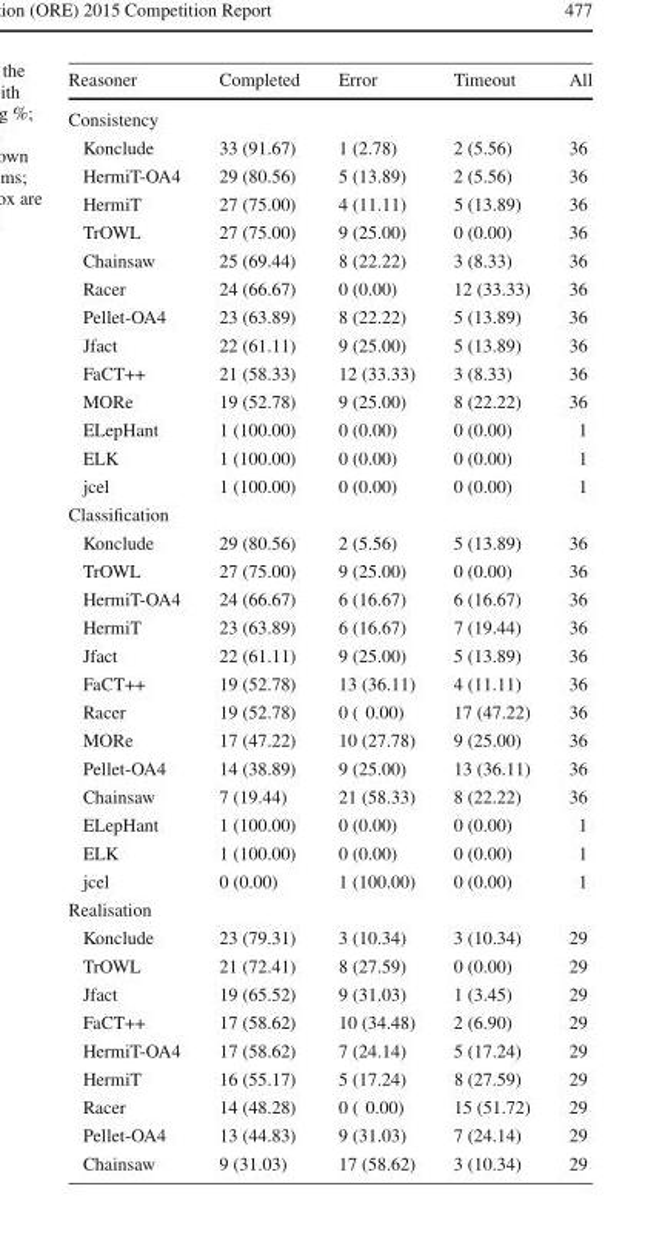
<table><thead><tr><td>Reasoner</td><td>Completed</td><td>Error</td><td>Timeout</td><td>All</td></tr></thead><tbody><tr><td colspan="5">Consistency</td></tr><tr><td>Konclude</td><td>33 (91.67)</td><td>1 (2.78)</td><td>2 (5.56)</td><td>36</td></tr><tr><td>HermiT-OA4</td><td>29 (80.56)</td><td>5 (13.89)</td><td>2 (5.56)</td><td>36</td></tr><tr><td>HermiT</td><td>27 (75.00)</td><td>4 (11.11)</td><td>5 (13.89)</td><td>36</td></tr><tr><td>TrOWL</td><td>27 (75.00)</td><td>9 (25.00)</td><td>0 (0.00)</td><td>36</td></tr><tr><td>Chainsaw</td><td>25 (69.44)</td><td>8 (22.22)</td><td>3 (8.33)</td><td>36</td></tr><tr><td>Racer</td><td>24 (66.67)</td><td>0 (0.00)</td><td>12 (33.33)</td><td>36</td></tr><tr><td>Pellet-OA4</td><td>23 (63.89)</td><td>8 (22.22)</td><td>5 (13.89)</td><td>36</td></tr><tr><td>Jfact</td><td>22 (61.11)</td><td>9 (25.00)</td><td>5 (13.89)</td><td>36</td></tr><tr><td>FaCT++</td><td>21 (58.33)</td><td>12 (33.33)</td><td>3 (8.33)</td><td>36</td></tr><tr><td>MORe</td><td>19 (52.78)</td><td>9 (25.00)</td><td>8 (22.22)</td><td>36</td></tr><tr><td>ELepHant</td><td>1 (100.00)</td><td>0 (0.00)</td><td>0 (0.00)</td><td>1</td></tr><tr><td>ELK</td><td>1 (100.00)</td><td>0 (0.00)</td><td>0 (0.00)</td><td>1</td></tr><tr><td>jcel</td><td>1 (100.00)</td><td>0 (0.00)</td><td>0 (0.00)</td><td>1</td></tr><tr><td colspan="5">Classification</td></tr><tr><td>Konclude</td><td>29 (80.56)</td><td>2 (5.56)</td><td>5 (13.89)</td><td>36</td></tr><tr><td>TrOWL</td><td>27 (75.00)</td><td>9 (25.00)</td><td>0 (0.00)</td><td>36</td></tr><tr><td>HermiT-OA4</td><td>24 (66.67)</td><td>6 (16.67)</td><td>6 (16.67)</td><td>36</td></tr><tr><td>HermiT</td><td>23 (63.89)</td><td>6 (16.67)</td><td>7 (19.44)</td><td>36</td></tr><tr><td>Jfact</td><td>22 (61.11)</td><td>9 (25.00)</td><td>5 (13.89)</td><td>36</td></tr><tr><td>FaCT++</td><td>19 (52.78)</td><td>13 (36.11)</td><td>4 (11.11)</td><td>36</td></tr><tr><td>Racer</td><td>19 (52.78)</td><td>0 ( 0.00)</td><td>17 (47.22)</td><td>36</td></tr><tr><td>MORe</td><td>17 (47.22)</td><td>10 (27.78)</td><td>9 (25.00)</td><td>36</td></tr><tr><td>Pellet-OA4</td><td>14 (38.89)</td><td>9 (25.00)</td><td>13 (36.11)</td><td>36</td></tr><tr><td>Chainsaw</td><td>7 (19.44)</td><td>21 (58.33)</td><td>8 (22.22)</td><td>36</td></tr><tr><td>ELepHant</td><td>1 (100.00)</td><td>0 (0.00)</td><td>0 (0.00)</td><td>1</td></tr><tr><td>ELK</td><td>1 (100.00)</td><td>0 (0.00)</td><td>0 (0.00)</td><td>1</td></tr><tr><td>jcel</td><td>0 (0.00)</td><td>1 (100.00)</td><td>0 (0.00)</td><td>1</td></tr><tr><td colspan="5">Realisation</td></tr><tr><td>Konclude</td><td>23 (79.31)</td><td>3 (10.34)</td><td>3 (10.34)</td><td>29</td></tr><tr><td>TrOWL</td><td>21 (72.41)</td><td>8 (27.59)</td><td>0 (0.00)</td><td>29</td></tr><tr><td>Jfact</td><td>19 (65.52)</td><td>9 (31.03)</td><td>1 (3.45)</td><td>29</td></tr><tr><td>FaCT++</td><td>17 (58.62)</td><td>10 (34.48)</td><td>2 (6.90)</td><td>29</td></tr><tr><td>HermiT-OA4</td><td>17 (58.62)</td><td>7 (24.14)</td><td>5 (17.24)</td><td>29</td></tr><tr><td>HermiT</td><td>16 (55.17)</td><td>5 (17.24)</td><td>8 (27.59)</td><td>29</td></tr><tr><td>Racer</td><td>14 (48.28)</td><td>0 ( 0.00)</td><td>15 (51.72)</td><td>29</td></tr><tr><td>Pellet-OA4</td><td>13 (44.83)</td><td>9 (31.03)</td><td>7 (24.14)</td><td>29</td></tr><tr><td>Chainsaw</td><td>9 (31.03)</td><td>17 (58.62)</td><td>3 (10.34)</td><td>29</td></tr></tbody></table>